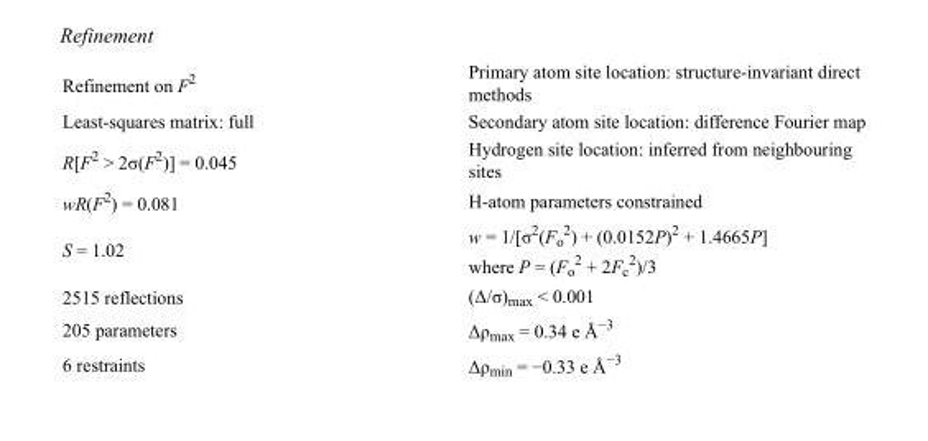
<table><tbody><tr><td>Refinement on F<sup>2</sup></td><td>Primary atom site location: structure-invariant direct methods</td></tr><tr><td>Least-squares matrix: full</td><td>Secondary atom site location: difference Fourier map</td></tr><tr><td>R[F<sup>2</sup> &gt; 2σ(F<sup>2</sup>)] = 0.045</td><td>Hydrogen site location: inferred from neighbouring sites</td></tr><tr><td>wR(F<sup>2</sup>) = 0.081</td><td>H-atom parameters constrained</td></tr><tr><td>S = 1.02</td><td>w = 1/[σ<sup>2</sup>(F<sub>o</sub> <sup>2</sup>) + (0.0152P)<sup>2</sup> + 1.4665P] where P = (F<sub>o</sub> <sup>2</sup> + 2F<sub>c</sub> <sup>2</sup>)/3</td></tr><tr><td>2515 reflections</td><td>(Δ/σ)<sub>max</sub> &lt; 0.001</td></tr><tr><td>205 parameters</td><td>Δρ<sub>max</sub> = 0.34 e Å<sup>−3</sup></td></tr><tr><td>6 restraints</td><td>Δρ<sub>min</sub> = −0.33 e Å<sup>−3</sup></td></tr></tbody></table>